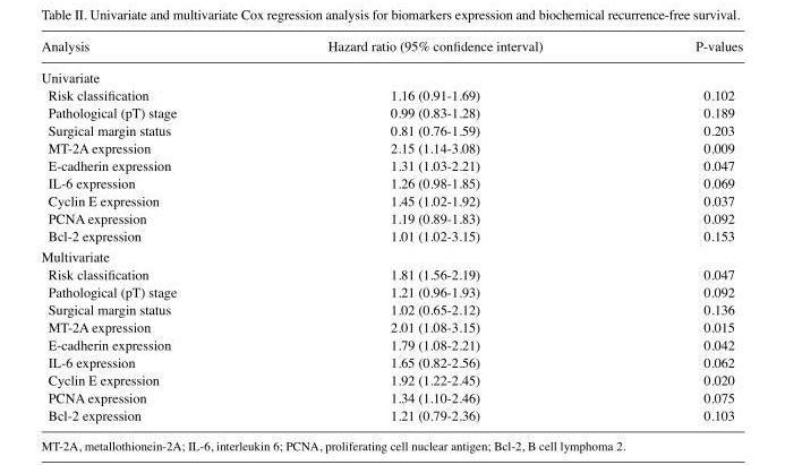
<table><thead><tr><td>Analysis</td><td>Hazard ratio (95% confidence interval)</td><td>P‑values</td></tr></thead><tbody><tr><td colspan="3">Univariate</td></tr><tr><td>Risk classification</td><td>1.16 (0.91‑1.69)</td><td>0.102</td></tr><tr><td>Pathological (pT) stage</td><td>0.99 (0.83-1.28)</td><td>0.189</td></tr><tr><td>Surgical margin status</td><td>0.81 (0.76-1.59)</td><td>0.203</td></tr><tr><td>MT-2A expression</td><td>2.15 (1.14-3.08)</td><td>0.009</td></tr><tr><td>E-cadherin expression</td><td>1.31 (1.03-2.21)</td><td>0.047</td></tr><tr><td>IL-6 expression</td><td>1.26 (0.98-1.85)</td><td>0.069</td></tr><tr><td>Cyclin E expression</td><td>1.45 (1.02-1.92)</td><td>0.037</td></tr><tr><td>PCNA expression</td><td>1.19 (0.89-1.83)</td><td>0.092</td></tr><tr><td>Bcl-2 expression</td><td>1.01 (1.02-3.15)</td><td>0.153</td></tr><tr><td colspan="3">Multivariate</td></tr><tr><td>Risk classification</td><td>1.81 (1.56‑2.19)</td><td>0.047</td></tr><tr><td>Pathological (pT) stage</td><td>1.21 (0.96-1.93)</td><td>0.092</td></tr><tr><td>Surgical margin status</td><td>1.02 (0.65-2.12)</td><td>0.136</td></tr><tr><td>MT-2A expression</td><td>2.01 (1.08-3.15)</td><td>0.015</td></tr><tr><td>E-cadherin expression</td><td>1.79 (1.08-2.21)</td><td>0.042</td></tr><tr><td>IL-6 expression</td><td>1.65 (0.82-2.56)</td><td>0.062</td></tr><tr><td>Cyclin E expression</td><td>1.92 (1.22-2.45)</td><td>0.020</td></tr><tr><td>PCNA expression</td><td>1.34 (1.10-2.46)</td><td>0.075</td></tr><tr><td>Bcl-2 expression</td><td>1.21 (0.79-2.36)</td><td>0.103</td></tr></tbody></table>